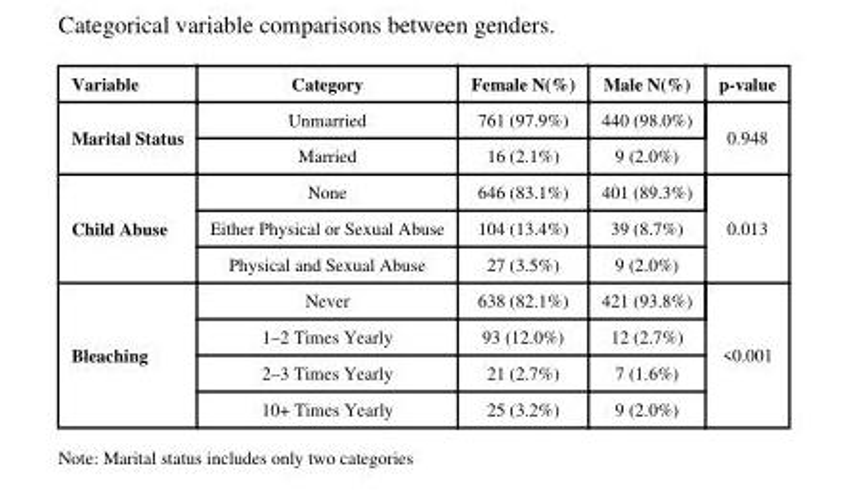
<table><thead><tr><td>Variable</td><td>Category</td><td>Female N(%)</td><td>Male N(%)</td><td>p-value</td></tr></thead><tbody><tr><td rowspan="2">Marital Status</td><td>Unmarried</td><td>761 (97.9%)</td><td>440 (98.0%)</td><td rowspan="2">0.948</td></tr><tr><td>Married</td><td>16 (2.1%)</td><td>9 (2.0%)</td></tr><tr><td rowspan="3">Child Abuse</td><td>None</td><td>646 (83.1%)</td><td>401 (89.3%)</td><td rowspan="3">0.013</td></tr><tr><td>Either Physical or Sexual Abuse</td><td>104 (13.4%)</td><td>39 (8.7%)</td></tr><tr><td>Physical and Sexual Abuse</td><td>27 (3.5%)</td><td>9 (2.0%)</td></tr><tr><td rowspan="4">Bleaching</td><td>Never</td><td>638 (82.1%)</td><td>421 (93.8%)</td><td rowspan="4">&lt;0.001</td></tr><tr><td>1–2 Times Yearly</td><td>93 (12.0%)</td><td>12 (2.7%)</td></tr><tr><td>2–3 Times Yearly</td><td>21 (2.7%)</td><td>7 (1.6%)</td></tr><tr><td>10+ Times Yearly</td><td>25 (3.2%)</td><td>9 (2.0%)</td></tr></tbody></table>